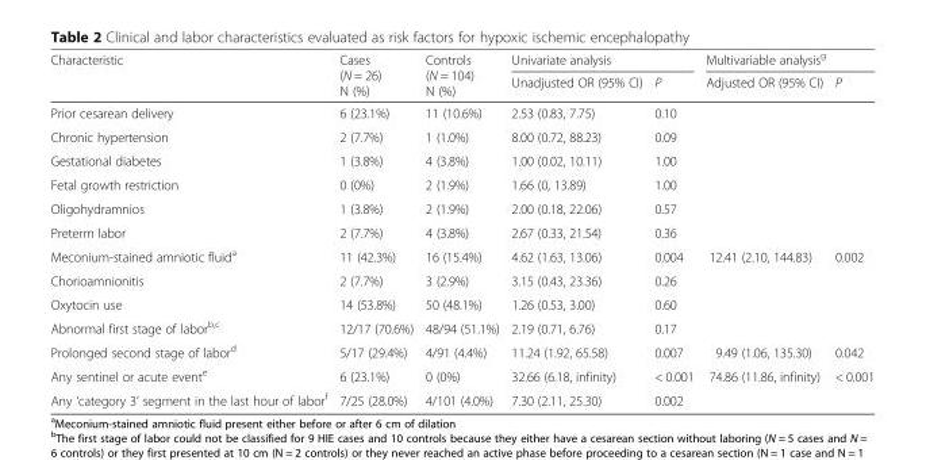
<table><thead><tr><td rowspan="2">Characteristic</td><td rowspan="2">Cases (N = 26) N (%)</td><td rowspan="2">Controls (N = 104) N (%)</td><td colspan="2">Univariate analysis</td><td colspan="2">Multivariable analysis<sup>g</sup></td></tr><tr><td>Unadjusted OR (95% CI)</td><td>P</td><td>Adjusted OR (95% CI)</td><td>P</td></tr></thead><tbody><tr><td>Prior cesarean delivery</td><td>6 (23.1%)</td><td>11 (10.6%)</td><td>2.53 (0.83, 7.75)</td><td>0.10</td><td></td><td></td></tr><tr><td>Chronic hypertension</td><td>2 (7.7%)</td><td>1 (1.0%)</td><td>8.00 (0.72, 88.23)</td><td>0.09</td><td></td><td></td></tr><tr><td>Gestational diabetes</td><td>1 (3.8%)</td><td>4 (3.8%)</td><td>1.00 (0.02, 10.11)</td><td>1.00</td><td></td><td></td></tr><tr><td>Fetal growth restriction</td><td>0 (0%)</td><td>2 (1.9%)</td><td>1.66 (0, 13.89)</td><td>1.00</td><td></td><td></td></tr><tr><td>Oligohydramnios</td><td>1 (3.8%)</td><td>2 (1.9%)</td><td>2.00 (0.18, 22.06)</td><td>0.57</td><td></td><td></td></tr><tr><td>Preterm labor</td><td>2 (7.7%)</td><td>4 (3.8%)</td><td>2.67 (0.33, 21.54)</td><td>0.36</td><td></td><td></td></tr><tr><td>Meconium-stained amniotic fluid<sup>a</sup></td><td>11 (42.3%)</td><td>16 (15.4%)</td><td>4.62 (1.63, 13.06)</td><td>0.004</td><td>12.41 (2.10, 144.83)</td><td>0.002</td></tr><tr><td>Chorioamnionitis</td><td>2 (7.7%)</td><td>3 (2.9%)</td><td>3.15 (0.43, 23.36)</td><td>0.26</td><td></td><td></td></tr><tr><td>Oxytocin use</td><td>14 (53.8%)</td><td>50 (48.1%)</td><td>1.26 (0.53, 3.00)</td><td>0.60</td><td></td><td></td></tr><tr><td>Abnormal first stage of labor<sup>b,c</sup></td><td>12/17 (70.6%)</td><td>48/94 (51.1%)</td><td>2.19 (0.71, 6.76)</td><td>0.17</td><td></td><td></td></tr><tr><td>Prolonged second stage of labor<sup>d</sup></td><td>5/17 (29.4%)</td><td>4/91 (4.4%)</td><td>11.24 (1.92, 65.58)</td><td>0.007</td><td>9.49 (1.06, 135.30)</td><td>0.042</td></tr><tr><td>Any sentinel or acute event<sup>e</sup></td><td>6 (23.1%)</td><td>0 (0%)</td><td>32.66 (6.18, infinity)</td><td>&lt; 0.001</td><td>74.86 (11.86, infinity)</td><td>&lt; 0.001</td></tr><tr><td>Any ‘category 3’ segment in the last hour of labor<sup>f</sup></td><td>7/25 (28.0%)</td><td>4/101 (4.0%)</td><td>7.30 (2.11, 25.30)</td><td>0.002</td><td></td><td></td></tr></tbody></table>